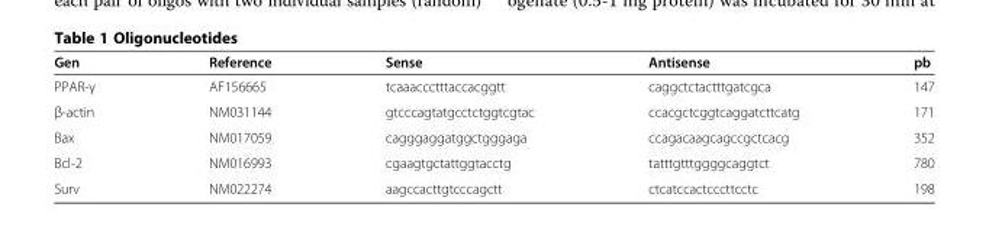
<table><thead><tr><td>Gen</td><td>Reference</td><td>Sense</td><td>Antisense</td><td>pb</td></tr></thead><tbody><tr><td>PPAR-γ</td><td>AF156665</td><td>tcaaaccctttaccacggtt</td><td>caggctctactttgatcgca</td><td>147</td></tr><tr><td>β-actin</td><td>NM031144</td><td>gtcccagtatgcctctggtcgtac</td><td>ccacgctcggtcaggatcttcatg</td><td>171</td></tr><tr><td>Bax</td><td>NM017059</td><td>cagggaggatggctgggaga</td><td>ccagacaagcagccgctcacg</td><td>352</td></tr><tr><td>Bcl-2</td><td>NM016993</td><td>cgaagtgctattggtacctg</td><td>tatttgtttggggcaggtct</td><td>780</td></tr><tr><td>Surv</td><td>NM022274</td><td>aagccacttgtcccagctt</td><td>ctcatccactcccttcctc</td><td>198</td></tr></tbody></table>